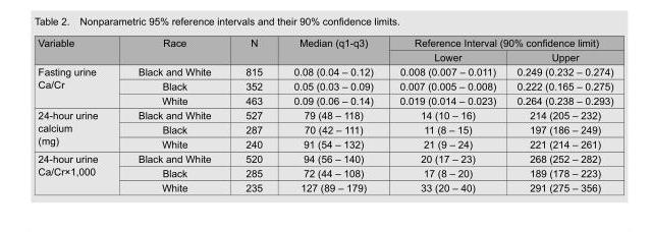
<table><thead><tr><td rowspan="2">Variable</td><td rowspan="2">Race</td><td rowspan="2">N</td><td rowspan="2">Median (q1-q3)</td><td colspan="2">Reference Interval (90% confidence limit)</td></tr><tr><td>Lower</td><td>Upper</td></tr></thead><tbody><tr><td rowspan="3">Fasting urine Ca/Cr</td><td>Black and White</td><td>815</td><td>0.08 (0.04 – 0.12)</td><td>0.008 (0.007 – 0.011)</td><td>0.249 (0.232 – 0.274)</td></tr><tr><td>Black</td><td>352</td><td>0.05 (0.03 – 0.09)</td><td>0.007 (0.005 – 0.008)</td><td>0.222 (0.165 – 0.275)</td></tr><tr><td>White</td><td>463</td><td>0.09 (0.06 – 0.14)</td><td>0.019 (0.014 – 0.023)</td><td>0.264 (0.238 – 0.293)</td></tr><tr><td rowspan="3">24-hour urine calcium (mg)</td><td>Black and White</td><td>527</td><td>79 (48 – 118)</td><td>14 (10 – 16)</td><td>214 (205 – 232)</td></tr><tr><td>Black</td><td>287</td><td>70 (42 – 111)</td><td>11 (8 – 15)</td><td>197 (186 – 249)</td></tr><tr><td>White</td><td>240</td><td>91 (54 – 132)</td><td>21 (9 – 24)</td><td>221 (214 – 261)</td></tr><tr><td rowspan="3">24-hour urine Ca/Cr×1,000</td><td>Black and White</td><td>520</td><td>94 (56 – 140)</td><td>20 (17 – 23)</td><td>268 (252 – 282)</td></tr><tr><td>Black</td><td>285</td><td>72 (44 – 108)</td><td>17 (8 – 20)</td><td>189 (178 – 223)</td></tr><tr><td>White</td><td>235</td><td>127 (89 – 179)</td><td>33 (20 – 40)</td><td>291 (275 – 356)</td></tr></tbody></table>